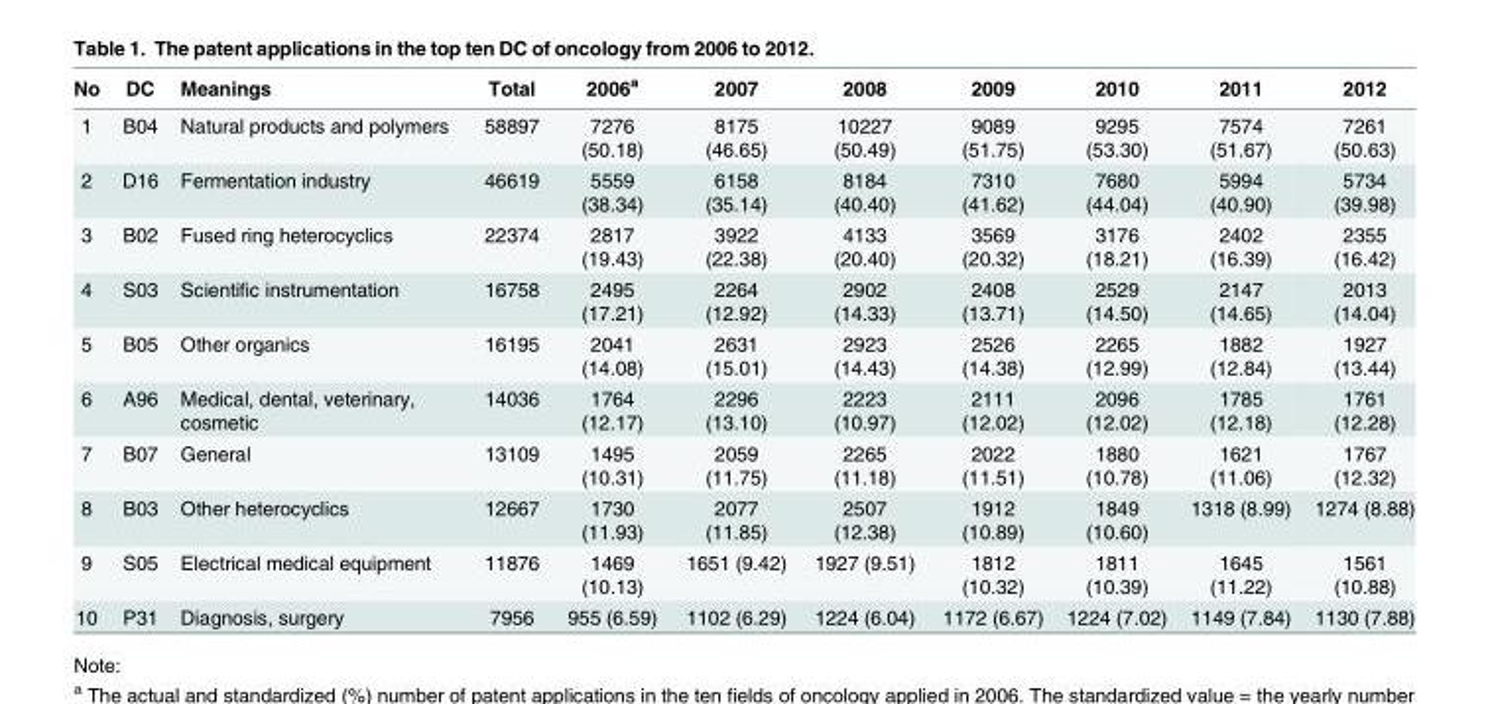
<table><thead><tr><td>No</td><td>DC</td><td>Meanings</td><td>Total</td><td>2006<sup>a</sup></td><td>2007</td><td>2008</td><td>2009</td><td>2010</td><td>2011</td><td>2012</td></tr></thead><tbody><tr><td>1</td><td>B04</td><td>Natural products and polymers</td><td>58897</td><td>7276 (50.18)</td><td>8175 (46.65)</td><td>10227 (50.49)</td><td>9089 (51.75)</td><td>9295 (53.30)</td><td>7574 (51.67)</td><td>7261 (50.63)</td></tr><tr><td>2</td><td>D16</td><td>Fermentation industry</td><td>46619</td><td>5559 (38.34)</td><td>6158 (35.14)</td><td>8184 (40.40)</td><td>7310 (41.62)</td><td>7680 (44.04)</td><td>5994 (40.90)</td><td>5734 (39.98)</td></tr><tr><td>3</td><td>B02</td><td>Fused ring heterocyclics</td><td>22374</td><td>2817 (19.43)</td><td>3922 (22.38)</td><td>4133 (20.40)</td><td>3569 (20.32)</td><td>3176 (18.21)</td><td>2402 (16.39)</td><td>2355 (16.42)</td></tr><tr><td>4</td><td>S03</td><td>Scientific instrumentation</td><td>16758</td><td>2495 (17.21)</td><td>2264 (12.92)</td><td>2902 (14.33)</td><td>2408 (13.71)</td><td>2529 (14.50)</td><td>2147 (14.65)</td><td>2013 (14.04)</td></tr><tr><td>5</td><td>B05</td><td>Other organics</td><td>16195</td><td>2041 (14.08)</td><td>2631 (15.01)</td><td>2923 (14.43)</td><td>2526 (14.38)</td><td>2265 (12.99)</td><td>1882 (12.84)</td><td>1927 (13.44)</td></tr><tr><td>6</td><td>A96</td><td>Medical, dental, veterinary, cosmetic</td><td>14036</td><td>1764 (12.17)</td><td>2296 (13.10)</td><td>2223 (10.97)</td><td>2111 (12.02)</td><td>2096 (12.02)</td><td>1785 (12.18)</td><td>1761 (12.28)</td></tr><tr><td>7</td><td>B07</td><td>General</td><td>13109</td><td>1495 (10.31)</td><td>2059 (11.75)</td><td>2265 (11.18)</td><td>2022 (11.51)</td><td>1880 (10.78)</td><td>1621 (11.06)</td><td>1767 (12.32)</td></tr><tr><td>8</td><td>B03</td><td>Other heterocyclics</td><td>12667</td><td>1730 (11.93)</td><td>2077 (11.85)</td><td>2507 (12.38)</td><td>1912 (10.89)</td><td>1849 (10.60)</td><td>1318 (8.99)</td><td>1274 (8.88)</td></tr><tr><td>9</td><td>S05</td><td>Electrical medical equipment</td><td>11876</td><td>1469 (10.13)</td><td>1651 (9.42)</td><td>1927 (9.51)</td><td>1812 (10.32)</td><td>1811 (10.39)</td><td>1645 (11.22)</td><td>1561 (10.88)</td></tr><tr><td>10</td><td>P31</td><td>Diagnosis, surgery</td><td>7956</td><td>955 (6.59)</td><td>1102 (6.29)</td><td>1224 (6.04)</td><td>1172 (6.67)</td><td>1224 (7.02)</td><td>1149 (7.84)</td><td>1130 (7.88)</td></tr></tbody></table>